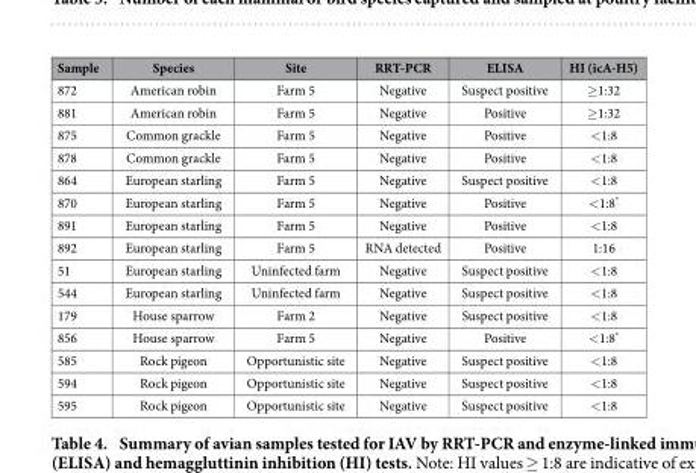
<table><thead><tr><td>Sample</td><td>Species</td><td>Site</td><td>RRT-PCR</td><td>ELISA</td><td>HI (icA-H5)</td></tr></thead><tbody><tr><td>872</td><td>American robin</td><td>Farm 5</td><td>Negative</td><td>Suspect positive</td><td>≥ 1:32</td></tr><tr><td>881</td><td>American robin</td><td>Farm 5</td><td>Negative</td><td>Positive</td><td>≥ 1:32</td></tr><tr><td>875</td><td>Common grackle</td><td>Farm 5</td><td>Negative</td><td>Positive</td><td>&lt; 1:8</td></tr><tr><td>878</td><td>Common grackle</td><td>Farm 5</td><td>Negative</td><td>Positive</td><td>&lt; 1:8</td></tr><tr><td>864</td><td>European starling</td><td>Farm 5</td><td>Negative</td><td>Suspect positive</td><td>&lt; 1:8</td></tr><tr><td>870</td><td>European starling</td><td>Farm 5</td><td>Negative</td><td>Positive</td><td>&lt; 1:8*</td></tr><tr><td>891</td><td>European starling</td><td>Farm 5</td><td>Negative</td><td>Positive</td><td>&lt; 1:8</td></tr><tr><td>892</td><td>European starling</td><td>Farm 5</td><td>RNA detected</td><td>Positive</td><td>1:16</td></tr><tr><td>51</td><td>European starling</td><td>Uninfected farm</td><td>Negative</td><td>Suspect positive</td><td>&lt; 1:8</td></tr><tr><td>544</td><td>European starling</td><td>Uninfected farm</td><td>Negative</td><td>Suspect positive</td><td>&lt; 1:8</td></tr><tr><td>179</td><td>House sparrow</td><td>Farm 2</td><td>Negative</td><td>Suspect positive</td><td>&lt; 1:8</td></tr><tr><td>856</td><td>House sparrow</td><td>Farm 5</td><td>Negative</td><td>Positive</td><td>&lt; 1:8*</td></tr><tr><td>585</td><td>Rock pigeon</td><td>Opportunistic site</td><td>Negative</td><td>Suspect positive</td><td>&lt; 1:8</td></tr><tr><td>594</td><td>Rock pigeon</td><td>Opportunistic site</td><td>Negative</td><td>Suspect positive</td><td>&lt; 1:8</td></tr><tr><td>595</td><td>Rock pigeon</td><td>Opportunistic site</td><td>Negative</td><td>Suspect positive</td><td>&lt; 1:8</td></tr></tbody></table>